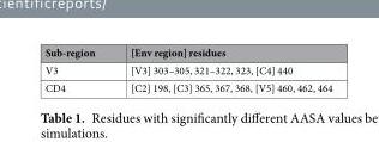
<table><thead><tr><td>Sub-region</td><td>[Env region] residues</td></tr></thead><tbody><tr><td>V3</td><td>[V3] 303–305, 321–322, 323, [C4] 440</td></tr><tr><td>CD4</td><td>[C2] 198, [C3] 365, 367, 368, [V5] 460, 462, 464</td></tr></tbody></table>